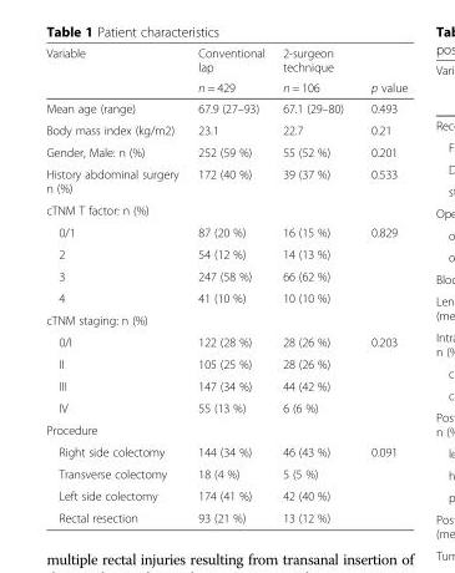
<table><thead><tr><td rowspan="2">Variable</td><td rowspan="2">Conventional lap n = 429</td><td rowspan="2">2-surgeon technique n = 106</td><td rowspan="2">p value</td></tr><tr></tr></thead><tbody><tr><td>Mean age (range)</td><td>67.9 (27–93)</td><td>67.1 (29–80)</td><td>0.493</td></tr><tr><td>Body mass index (kg/m2)</td><td>23.1</td><td>22.7</td><td>0.21</td></tr><tr><td>Gender, Male: n (%)</td><td>252 (59 %)</td><td>55 (52 %)</td><td>0.201</td></tr><tr><td>History abdominal surgery n (%)</td><td>172 (40 %)</td><td>39 (37 %)</td><td>0.533</td></tr><tr><td colspan="4">cTNM T factor: n (%)</td></tr><tr><td>0/1</td><td>87 (20 %)</td><td>16 (15 %)</td><td rowspan="4">0.829</td></tr><tr><td>2</td><td>54 (12 %)</td><td>14 (13 %)</td></tr><tr><td>3</td><td>247 (58 %)</td><td>66 (62 %)</td></tr><tr><td>4</td><td>41 (10 %)</td><td>10 (10 %)</td></tr><tr><td colspan="4">cTNM staging: n (%)</td></tr><tr><td>0/I</td><td>122 (28 %)</td><td>28 (26 %)</td><td rowspan="4">0.203</td></tr><tr><td>II</td><td>105 (25 %)</td><td>28 (26 %)</td></tr><tr><td>III</td><td>147 (34 %)</td><td>44 (42 %)</td></tr><tr><td>IV</td><td>55 (13 %)</td><td>6 (6 %)</td></tr><tr><td colspan="4">Procedure</td></tr><tr><td>Right side colectomy</td><td>144 (34 %)</td><td>46 (43 %)</td><td rowspan="4">0.091</td></tr><tr><td>Transverse colectomy</td><td>18 (4 %)</td><td>5 (5 %)</td></tr><tr><td>Left side colectomy</td><td>174 (41 %)</td><td>42 (40 %)</td></tr><tr><td>Rectal resection</td><td>93 (21 %)</td><td>13 (12 %)</td></tr></tbody></table>